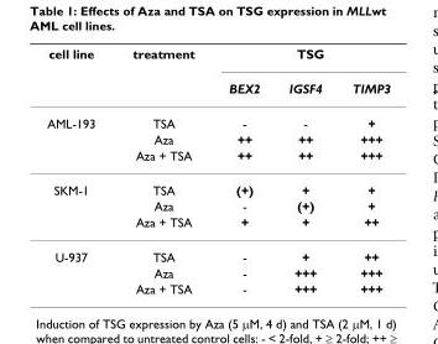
<table><thead><tr><td rowspan="2">cell line</td><td rowspan="2">treatment</td><td colspan="3">TSG</td></tr><tr><td>BEX2</td><td>IGSF4</td><td>TIMP3</td></tr></thead><tbody><tr><td rowspan="3">AML-193</td><td>TSA</td><td>-</td><td>-</td><td>+</td></tr><tr><td>Aza</td><td>++</td><td>++</td><td>+++</td></tr><tr><td>Aza + TSA</td><td>++</td><td>++</td><td>+++</td></tr><tr><td rowspan="3">SKM-1</td><td>TSA</td><td>(+)</td><td>+</td><td>+</td></tr><tr><td>Aza</td><td>-</td><td>(+)</td><td>+</td></tr><tr><td>Aza + TSA</td><td>+</td><td>+</td><td>++</td></tr><tr><td rowspan="3">U-937</td><td>TSA</td><td>-</td><td>+</td><td>++</td></tr><tr><td>Aza</td><td>-</td><td>+++</td><td>+++</td></tr><tr><td>Aza + TSA</td><td>-</td><td>+++</td><td>+++</td></tr></tbody></table>